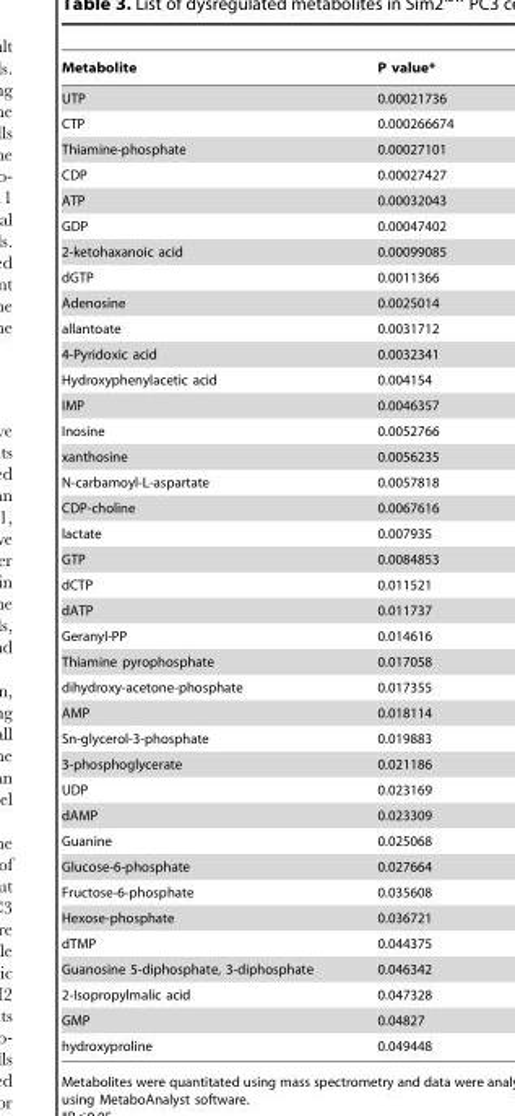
<table><thead><tr><td>Metabolite</td><td>P value*</td></tr></thead><tbody><tr><td>UTP</td><td>0.00021736</td></tr><tr><td>CTP</td><td>0.000266674</td></tr><tr><td>Thiamine-phosphate</td><td>0.00027101</td></tr><tr><td>CDP</td><td>0.00027427</td></tr><tr><td>ATP</td><td>0.00032043</td></tr><tr><td>GDP</td><td>0.00047402</td></tr><tr><td>2-ketohaxanoic acid</td><td>0.00099085</td></tr><tr><td>dGTP</td><td>0.0011366</td></tr><tr><td>Adenosine</td><td>0.0025014</td></tr><tr><td>allantoate</td><td>0.0031712</td></tr><tr><td>4-Pyridoxic acid</td><td>0.0032341</td></tr><tr><td>Hydroxyphenylacetic acid</td><td>0.004154</td></tr><tr><td>IMP</td><td>0.0046357</td></tr><tr><td>Inosine</td><td>0.0052766</td></tr><tr><td>xanthosine</td><td>0.0056235</td></tr><tr><td>N-carbamoyl-L-aspartate</td><td>0.0057818</td></tr><tr><td>CDP-choline</td><td>0.0067616</td></tr><tr><td>lactate</td><td>0.007935</td></tr><tr><td>GTP</td><td>0.0084853</td></tr><tr><td>dCTP</td><td>0.011521</td></tr><tr><td>dATP</td><td>0.011737</td></tr><tr><td>Geranyl-PP</td><td>0.014616</td></tr><tr><td>Thiamine pyrophosphate</td><td>0.017058</td></tr><tr><td>dihydroxy-acetone-phosphate</td><td>0.017355</td></tr><tr><td>AMP</td><td>0.018114</td></tr><tr><td>Sn-glycerol-3-phosphate</td><td>0.019883</td></tr><tr><td>3-phosphoglycerate</td><td>0.021186</td></tr><tr><td>UDP</td><td>0.023169</td></tr><tr><td>dAMP</td><td>0.023309</td></tr><tr><td>Guanine</td><td>0.025068</td></tr><tr><td>Glucose-6-phosphate</td><td>0.027664</td></tr><tr><td>Fructose-6-phosphate</td><td>0.035608</td></tr><tr><td>Hexose-phosphate</td><td>0.036721</td></tr><tr><td>dTMP</td><td>0.044375</td></tr><tr><td>Guanosine 5-diphosphate, 3-diphosphate</td><td>0.046342</td></tr><tr><td>2-Isopropylmalic acid</td><td>0.047328</td></tr><tr><td>GMP</td><td>0.04827</td></tr><tr><td>hydroxyproline</td><td>0.049448</td></tr></tbody></table>